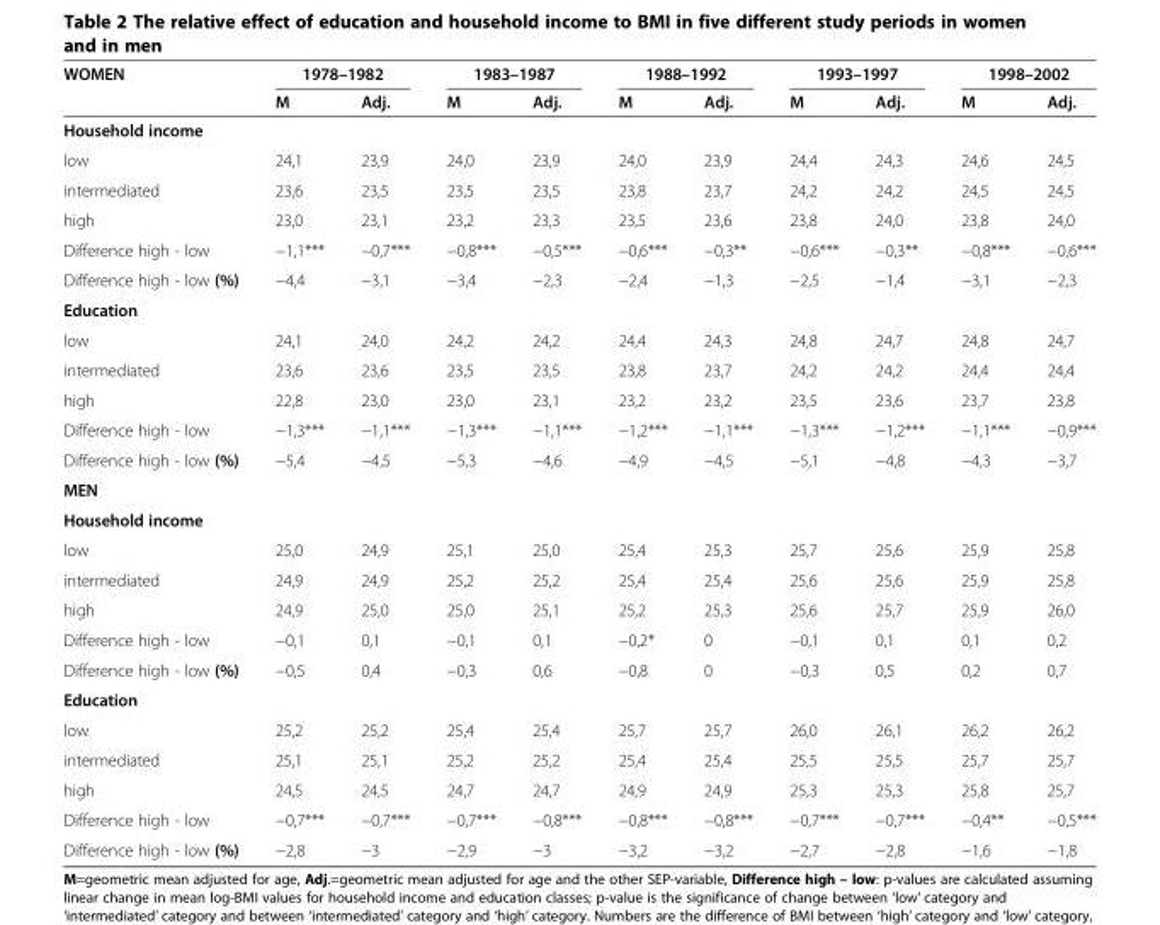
<table><thead><tr><td rowspan="2">WOMEN</td><td colspan="2">1978–1982</td><td colspan="2">1983–1987</td><td colspan="2">1988–1992</td><td colspan="2">1993–1997</td><td colspan="2">1998–2002</td></tr><tr><td>M</td><td>Adj.</td><td>M</td><td>Adj.</td><td>M</td><td>Adj.</td><td>M</td><td>Adj.</td><td>M</td><td>Adj.</td></tr></thead><tbody><tr><td colspan="11">Household income</td></tr><tr><td>low</td><td>24,1</td><td>23,9</td><td>24,0</td><td>23,9</td><td>24,0</td><td>23,9</td><td>24,4</td><td>24,3</td><td>24,6</td><td>24,5</td></tr><tr><td>intermediated</td><td>23,6</td><td>23,5</td><td>23,5</td><td>23,5</td><td>23,8</td><td>23,7</td><td>24,2</td><td>24,2</td><td>24,5</td><td>24,5</td></tr><tr><td>high</td><td>23,0</td><td>23,1</td><td>23,2</td><td>23,3</td><td>23,5</td><td>23,6</td><td>23,8</td><td>24,0</td><td>23,8</td><td>24,0</td></tr><tr><td>Difference high - low</td><td>−1,1***</td><td>−0,7***</td><td>−0,8***</td><td>−0,5***</td><td>−0,6***</td><td>−0,3**</td><td>−0,6***</td><td>−0,3**</td><td>−0,8***</td><td>−0,6***</td></tr><tr><td>Difference high - low (%)</td><td>−4,4</td><td>−3,1</td><td>−3,4</td><td>−2,3</td><td>−2,4</td><td>−1,3</td><td>−2,5</td><td>−1,4</td><td>−3,1</td><td>−2,3</td></tr><tr><td colspan="11">Education</td></tr><tr><td>low</td><td>24,1</td><td>24,0</td><td>24,2</td><td>24,2</td><td>24,4</td><td>24,3</td><td>24,8</td><td>24,7</td><td>24,8</td><td>24,7</td></tr><tr><td>intermediated</td><td>23,6</td><td>23,6</td><td>23,5</td><td>23,5</td><td>23,8</td><td>23,7</td><td>24,2</td><td>24,2</td><td>24,4</td><td>24,4</td></tr><tr><td>high</td><td>22,8</td><td>23,0</td><td>23,0</td><td>23,1</td><td>23,2</td><td>23,2</td><td>23,5</td><td>23,6</td><td>23,7</td><td>23,8</td></tr><tr><td>Difference high - low</td><td>−1,3***</td><td>−1,1***</td><td>−1,3***</td><td>−1,1***</td><td>−1,2***</td><td>−1,1***</td><td>−1,3***</td><td>−1,2***</td><td>−1,1***</td><td>−0,9***</td></tr><tr><td>Difference high - low (%)</td><td>−5,4</td><td>−4,5</td><td>−5,3</td><td>−4,6</td><td>−4,9</td><td>−4,5</td><td>−5,1</td><td>−4,8</td><td>−4,3</td><td>−3,7</td></tr><tr><td colspan="11">MEN</td></tr><tr><td colspan="11">Household income</td></tr><tr><td>low</td><td>25,0</td><td>24,9</td><td>25,1</td><td>25,0</td><td>25,4</td><td>25,3</td><td>25,7</td><td>25,6</td><td>25,9</td><td>25,8</td></tr><tr><td>intermediated</td><td>24,9</td><td>24,9</td><td>25,2</td><td>25,2</td><td>25,4</td><td>25,4</td><td>25,6</td><td>25,6</td><td>25,9</td><td>25,8</td></tr><tr><td>high</td><td>24,9</td><td>25,0</td><td>25,0</td><td>25,1</td><td>25,2</td><td>25,3</td><td>25,6</td><td>25,7</td><td>25,9</td><td>26,0</td></tr><tr><td>Difference high - low</td><td>−0,1</td><td>0,1</td><td>−0,1</td><td>0,1</td><td>−0,2*</td><td>0</td><td>−0,1</td><td>0,1</td><td>0,1</td><td>0,2</td></tr><tr><td>Difference high - low (%)</td><td>−0,5</td><td>0,4</td><td>−0,3</td><td>0,6</td><td>−0,8</td><td>0</td><td>−0,3</td><td>0,5</td><td>0,2</td><td>0,7</td></tr><tr><td colspan="11">Education</td></tr><tr><td>low</td><td>25,2</td><td>25,2</td><td>25,4</td><td>25,4</td><td>25,7</td><td>25,7</td><td>26,0</td><td>26,1</td><td>26,2</td><td>26,2</td></tr><tr><td>intermediated</td><td>25,1</td><td>25,1</td><td>25,2</td><td>25,2</td><td>25,4</td><td>25,4</td><td>25,5</td><td>25,5</td><td>25,7</td><td>25,7</td></tr><tr><td>high</td><td>24,5</td><td>24,5</td><td>24,7</td><td>24,7</td><td>24,9</td><td>24,9</td><td>25,3</td><td>25,3</td><td>25,8</td><td>25,7</td></tr><tr><td>Difference high - low</td><td>−0,7***</td><td>−0,7***</td><td>−0,7***</td><td>−0,8***</td><td>−0,8***</td><td>−0,8***</td><td>−0,7***</td><td>−0,7***</td><td>−0,4**</td><td>−0,5***</td></tr><tr><td>Difference high - low (%)</td><td>−2,8</td><td>−3</td><td>−2,9</td><td>−3</td><td>−3,2</td><td>−3,2</td><td>−2,7</td><td>−2,8</td><td>−1,6</td><td>−1,8</td></tr></tbody></table>